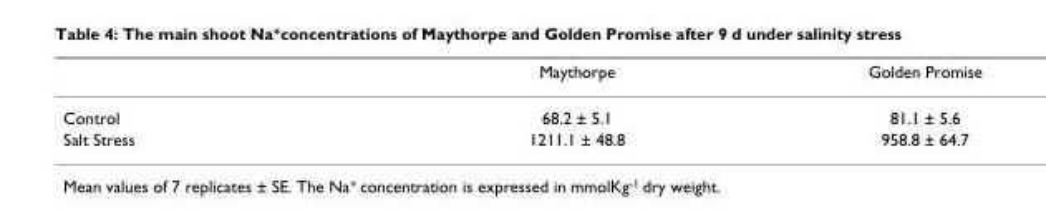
<table><thead><tr><td></td><td>Maythorpe</td><td>Golden Promise</td></tr></thead><tbody><tr><td>Control</td><td>68.2 ± 5.1</td><td>81.1 ± 5.6</td></tr><tr><td>Salt Stress</td><td>1211.1 ± 48.8</td><td>958.8 ± 64.7</td></tr></tbody></table>